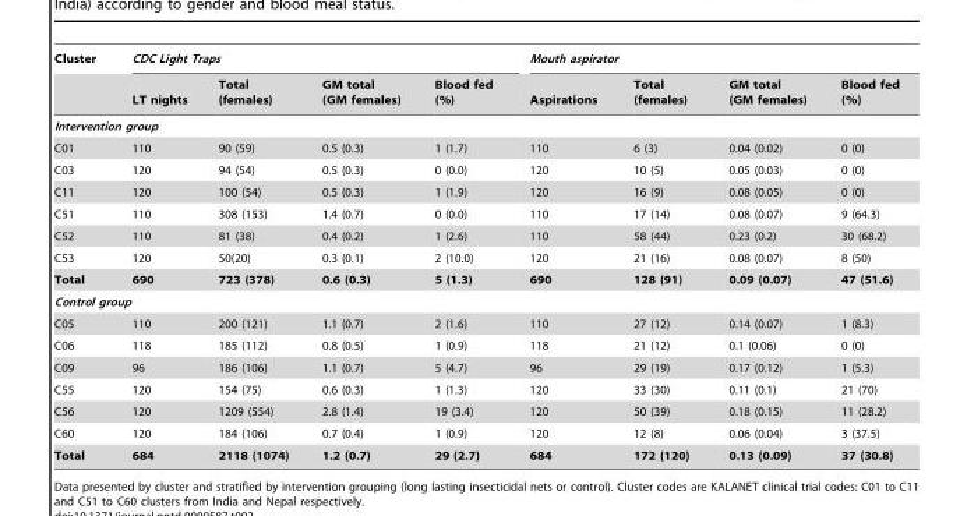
<table><thead><tr><td rowspan="2">Cluster</td><td colspan="4">CDC Light Traps</td><td colspan="4">Mouth aspirator</td></tr><tr><td>LT nights</td><td>Total (females)</td><td>GM total (GM females)</td><td>Blood fed (%)</td><td>Aspirations</td><td>Total (females)</td><td>GM total (GM females)</td><td>Blood fed (%)</td></tr></thead><tbody><tr><td colspan="9">Intervention group</td></tr><tr><td>C01</td><td>110</td><td>90 (59)</td><td>0.5 (0.3)</td><td>1 (1.7)</td><td>110</td><td>6 (3)</td><td>0.04 (0.02)</td><td>0 (0)</td></tr><tr><td>C03</td><td>120</td><td>94 (54)</td><td>0.5 (0.3)</td><td>0 (0.0)</td><td>120</td><td>10 (5)</td><td>0.05 (0.03)</td><td>0 (0)</td></tr><tr><td>C11</td><td>120</td><td>100 (54)</td><td>0.5 (0.3)</td><td>1 (1.9)</td><td>120</td><td>16 (9)</td><td>0.08 (0.05)</td><td>0 (0)</td></tr><tr><td>C51</td><td>110</td><td>308 (153)</td><td>1.4 (0.7)</td><td>0 (0.0)</td><td>110</td><td>17 (14)</td><td>0.08 (0.07)</td><td>9 (64.3)</td></tr><tr><td>C52</td><td>110</td><td>81 (38)</td><td>0.4 (0.2)</td><td>1 (2.6)</td><td>110</td><td>58 (44)</td><td>0.23 (0.2)</td><td>30 (68.2)</td></tr><tr><td>C53</td><td>120</td><td>50(20)</td><td>0.3 (0.1)</td><td>2 (10.0)</td><td>120</td><td>21 (16)</td><td>0.08 (0.07)</td><td>8 (50)</td></tr><tr><td>Total</td><td>690</td><td>723 (378)</td><td>0.6 (0.3)</td><td>5 (1.3)</td><td>690</td><td>128 (91)</td><td>0.09 (0.07)</td><td>47 (51.6)</td></tr><tr><td colspan="9">Control group</td></tr><tr><td>C05</td><td>110</td><td>200 (121)</td><td>1.1 (0.7)</td><td>2 (1.6)</td><td>110</td><td>27 (12)</td><td>0.14 (0.07)</td><td>1 (8.3)</td></tr><tr><td>C06</td><td>118</td><td>185 (112)</td><td>0.8 (0.5)</td><td>1 (0.9)</td><td>118</td><td>21 (12)</td><td>0.1 (0.06)</td><td>0 (0)</td></tr><tr><td>C09</td><td>96</td><td>186 (106)</td><td>1.1 (0.7)</td><td>5 (4.7)</td><td>96</td><td>29 (19)</td><td>0.17 (0.12)</td><td>1 (5.3)</td></tr><tr><td>C55</td><td>120</td><td>154 (75)</td><td>0.6 (0.3)</td><td>1 (1.3)</td><td>120</td><td>33 (30)</td><td>0.11 (0.1)</td><td>21 (70)</td></tr><tr><td>C56</td><td>120</td><td>1209 (554)</td><td>2.8 (1.4)</td><td>19 (3.4)</td><td>120</td><td>50 (39)</td><td>0.18 (0.15)</td><td>11 (28.2)</td></tr><tr><td>C60</td><td>120</td><td>184 (106)</td><td>0.7 (0.4)</td><td>1 (0.9)</td><td>120</td><td>12 (8)</td><td>0.06 (0.04)</td><td>3 (37.5)</td></tr><tr><td>Total</td><td>684</td><td>2118 (1074)</td><td>1.2 (0.7)</td><td>29 (2.7)</td><td>684</td><td>172 (120)</td><td>0.13 (0.09)</td><td>37 (30.8)</td></tr></tbody></table>